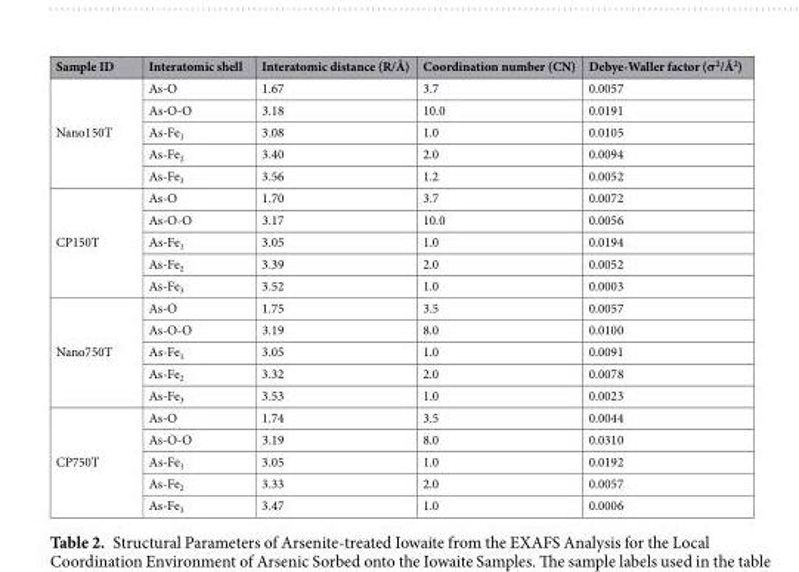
<table><thead><tr><td>Sample ID</td><td>Interatomic shell</td><td>Interatomic distance (R/Å)</td><td>Coordination number (CN)</td><td>Debye-Waller factor (σ<sup>2</sup>/Å<sup>2</sup>)</td></tr></thead><tbody><tr><td rowspan="5">Nano150T</td><td>As-O</td><td>1.67</td><td>3.7</td><td>0.0057</td></tr><tr><td>As-O-O</td><td>3.18</td><td>10.0</td><td>0.0191</td></tr><tr><td>As-Fe<sub>1</sub></td><td>3.08</td><td>1.0</td><td>0.0105</td></tr><tr><td>As-Fe<sub>2</sub></td><td>3.40</td><td>2.0</td><td>0.0094</td></tr><tr><td>As-Fe<sub>3</sub></td><td>3.56</td><td>1.2</td><td>0.0052</td></tr><tr><td rowspan="5">CP150T</td><td>As-O</td><td>1.70</td><td>3.7</td><td>0.0072</td></tr><tr><td>As-O-O</td><td>3.17</td><td>10.0</td><td>0.0056</td></tr><tr><td>As-Fe<sub>1</sub></td><td>3.05</td><td>1.0</td><td>0.0194</td></tr><tr><td>As-Fe<sub>2</sub></td><td>3.39</td><td>2.0</td><td>0.0052</td></tr><tr><td>As-Fe<sub>3</sub></td><td>3.52</td><td>1.0</td><td>0.0003</td></tr><tr><td rowspan="5">Nano750T</td><td>As-O</td><td>1.75</td><td>3.5</td><td>0.0057</td></tr><tr><td>As-O-O</td><td>3.19</td><td>8.0</td><td>0.0100</td></tr><tr><td>As-Fe<sub>1</sub></td><td>3.05</td><td>1.0</td><td>0.0091</td></tr><tr><td>As-Fe<sub>2</sub></td><td>3.32</td><td>2.0</td><td>0.0078</td></tr><tr><td>As-Fe<sub>3</sub></td><td>3.53</td><td>1.0</td><td>0.0023</td></tr><tr><td rowspan="5">CP750T</td><td>As-O</td><td>1.74</td><td>3.5</td><td>0.0044</td></tr><tr><td>As-O-O</td><td>3.19</td><td>8.0</td><td>0.0310</td></tr><tr><td>As-Fe<sub>1</sub></td><td>3.05</td><td>1.0</td><td>0.0192</td></tr><tr><td>As-Fe<sub>2</sub></td><td>3.33</td><td>2.0</td><td>0.0057</td></tr><tr><td>As-Fe<sub>3</sub></td><td>3.47</td><td>1.0</td><td>0.0006</td></tr></tbody></table>